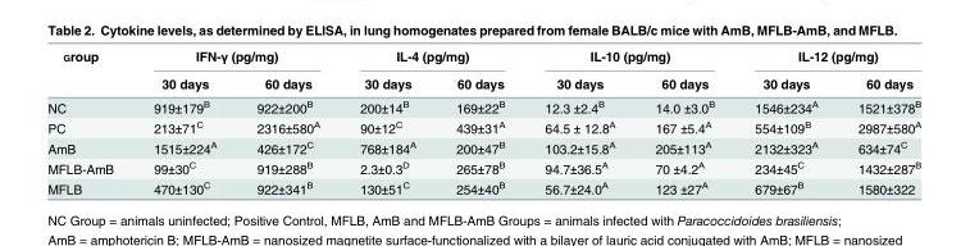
<table><thead><tr><td rowspan="2">Group</td><td colspan="2">IFN-γ (pg/mg)</td><td colspan="2">IL-4 (pg/mg)</td><td colspan="2">IL-10 (pg/mg)</td><td colspan="2">IL-12 (pg/mg)</td></tr><tr><td>30 days</td><td>60 days</td><td>30 days</td><td>60 days</td><td>30 days</td><td>60 days</td><td>30 days</td><td>60 days</td></tr></thead><tbody><tr><td>NC</td><td>919±179<sup>B</sup></td><td>922±200<sup>B</sup></td><td>200±14<sup>B</sup></td><td>169±22<sup>B</sup></td><td>12.3 ±2.4<sup>B</sup></td><td>14.0 ±3.0<sup>B</sup></td><td>1546±234<sup>A</sup></td><td>1521±378<sup>B</sup></td></tr><tr><td>PC</td><td>213±71<sup>C</sup></td><td>2316±580<sup>A</sup></td><td>90±12<sup>C</sup></td><td>439±31<sup>A</sup></td><td>64.5 ± 12.8<sup>A</sup></td><td>167 ±5.4<sup>A</sup></td><td>554±109<sup>B</sup></td><td>2987±580<sup>A</sup></td></tr><tr><td>AmB</td><td>1515±224<sup>A</sup></td><td>426±172<sup>C</sup></td><td>768±184<sup>A</sup></td><td>200±47<sup>B</sup></td><td>103.2±15.8<sup>A</sup></td><td>205±113<sup>A</sup></td><td>2132±323<sup>A</sup></td><td>634±74<sup>C</sup></td></tr><tr><td>MFLB-AmB</td><td>99±30<sup>C</sup></td><td>919±288<sup>B</sup></td><td>2.3±0.3<sup>D</sup></td><td>265±78<sup>B</sup></td><td>94.7±36.5<sup>A</sup></td><td>70 ±4.2<sup>A</sup></td><td>234±45<sup>C</sup></td><td>1432±287<sup>B</sup></td></tr><tr><td>MFLB</td><td>470±130<sup>C</sup></td><td>922±341<sup>B</sup></td><td>130±51<sup>C</sup></td><td>254±40<sup>B</sup></td><td>56.7±24.0<sup>A</sup></td><td>123 ±27<sup>A</sup></td><td>679±67<sup>B</sup></td><td>1580±322</td></tr></tbody></table>